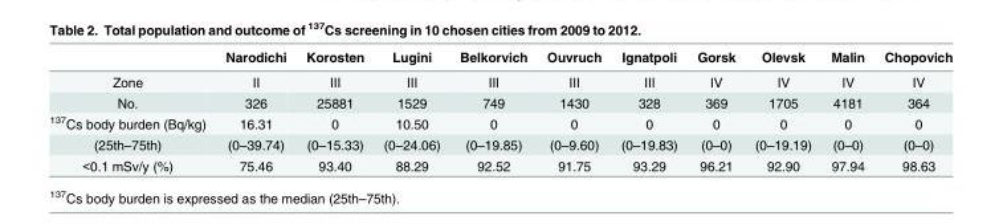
<table><thead><tr><td></td><td>Narodichi</td><td>Korosten</td><td>Lugini</td><td>Belkorvich</td><td>Ouvruch</td><td>Ignatpoli</td><td>Gorsk</td><td>Olevsk</td><td>Malin</td><td>Chopovich</td></tr></thead><tbody><tr><td>Zone</td><td>II</td><td>III</td><td>III</td><td>III</td><td>III</td><td>III</td><td>IV</td><td>IV</td><td>IV</td><td>IV</td></tr><tr><td>No.</td><td>326</td><td>25881</td><td>1529</td><td>749</td><td>1430</td><td>328</td><td>369</td><td>1705</td><td>4181</td><td>364</td></tr><tr><td><sup>137</sup>Cs body burden (Bq/kg)</td><td>16.31</td><td>0</td><td>10.50</td><td>0</td><td>0</td><td>0</td><td>0</td><td>0</td><td>0</td><td>0</td></tr><tr><td>(25th–75th)</td><td>(0–39.74)</td><td>(0–15.33)</td><td>(0–24.06)</td><td>(0–19.85)</td><td>(0–9.60)</td><td>(0–19.83)</td><td>(0–0)</td><td>(0–19.19)</td><td>(0–0)</td><td>(0–0)</td></tr><tr><td>&lt;0.1 mSv/y (%)</td><td>75.46</td><td>93.40</td><td>88.29</td><td>92.52</td><td>91.75</td><td>93.29</td><td>96.21</td><td>92.90</td><td>97.94</td><td>98.63</td></tr></tbody></table>